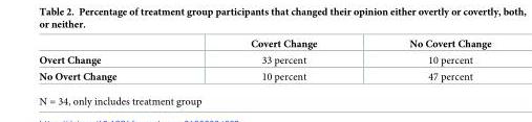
<table><thead><tr><td></td><td>Covert Change</td><td>No Covert Change</td></tr></thead><tbody><tr><td>Overt Change</td><td>33 percent</td><td>10 percent</td></tr><tr><td>No Overt Change</td><td>10 percent</td><td>47 percent</td></tr></tbody></table>